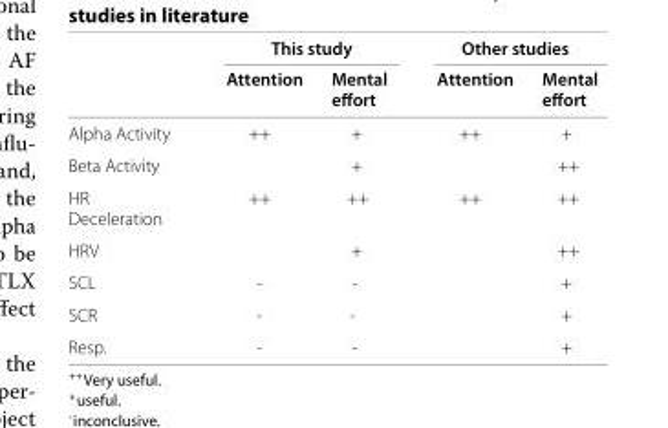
<table><thead><tr><td></td><td>Attention</td><td>Mental effort</td><td>Attention</td><td>Mental effort</td></tr></thead><tbody><tr><td>Alpha Activity</td><td>++</td><td>+</td><td>++</td><td>+</td></tr><tr><td>Beta Activity</td><td></td><td>+</td><td></td><td>++</td></tr><tr><td>HR Deceleration</td><td>++</td><td>++</td><td>++</td><td>++</td></tr><tr><td>HRV</td><td></td><td>+</td><td></td><td>++</td></tr><tr><td>SCL</td><td>-</td><td>-</td><td></td><td>+</td></tr><tr><td>SCR</td><td>-</td><td>-</td><td></td><td>+</td></tr><tr><td>Resp.</td><td>-</td><td>-</td><td></td><td>+</td></tr></tbody></table>